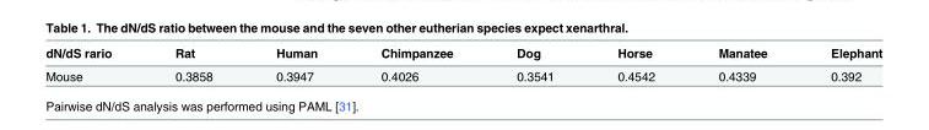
<table><thead><tr><td>dN/dS rario</td><td>Rat</td><td>Human</td><td>Chimpanzee</td><td>Dog</td><td>Horse</td><td>Manatee</td><td>Elephant</td></tr></thead><tbody><tr><td>Mouse</td><td>0.3858</td><td>0.3947</td><td>0.4026</td><td>0.3541</td><td>0.4542</td><td>0.4339</td><td>0.392</td></tr></tbody></table>